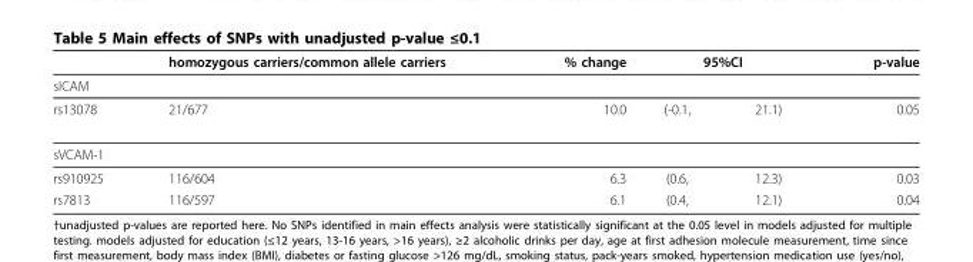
<table><thead><tr><td rowspan="2">sICAM</td><td rowspan="2">homozygous carriers/common allele carriers</td><td rowspan="2">% change</td><td colspan="2">95%CI</td><td rowspan="2">p-value</td></tr><tr><td></td><td></td></tr></thead><tbody><tr><td>rs13078</td><td>21/677</td><td>10.0</td><td>(-0.1,</td><td>21.1)</td><td>0.05</td></tr><tr><td colspan="6">sVCAM-1</td></tr><tr><td>rs910925</td><td>116/604</td><td>6.3</td><td>(0.6,</td><td>12.3)</td><td>0.03</td></tr><tr><td>rs7813</td><td>116/597</td><td>6.1</td><td>(0.4,</td><td>12.1)</td><td>0.04</td></tr></tbody></table>